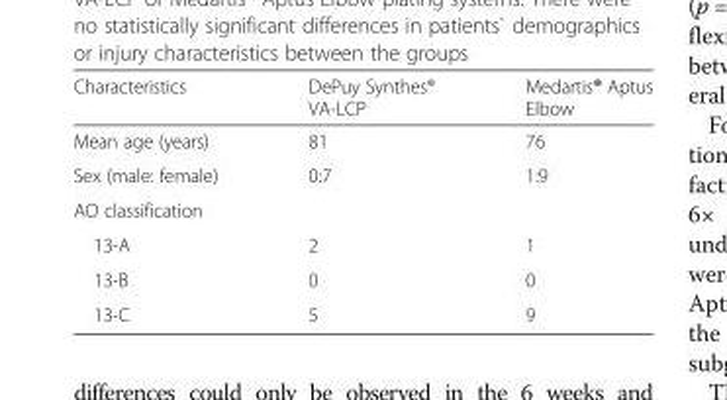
<table><thead><tr><td>Characteristics</td><td>DePuy Synthes® VA-LCP</td><td>Medartis® Aptus Elbow</td></tr></thead><tbody><tr><td>Mean age (years)</td><td>81</td><td>76</td></tr><tr><td>Sex (male: female)</td><td>0:7</td><td>1:9</td></tr><tr><td colspan="3">AO classification</td></tr><tr><td>13-A</td><td>2</td><td>1</td></tr><tr><td>13-B</td><td>0</td><td>0</td></tr><tr><td>13-C</td><td>5</td><td>9</td></tr></tbody></table>